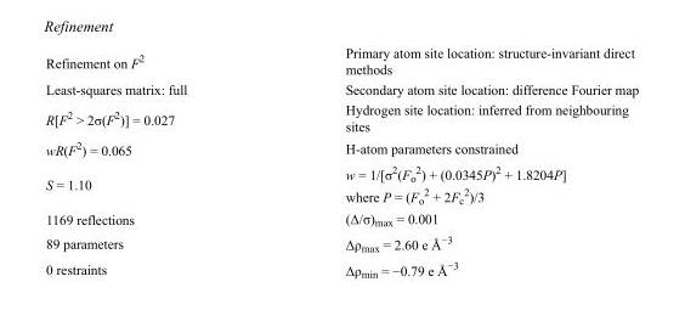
<table><tbody><tr><td>Refinement on F<sup>2</sup></td><td>Primary atom site location: structure-invariant direct methods</td></tr><tr><td>Least-squares matrix: full</td><td>Secondary atom site location: difference Fourier map</td></tr><tr><td>R[F<sup>2</sup> &gt; 2σ(F<sup>2</sup>)] = 0.027</td><td>Hydrogen site location: inferred from neighbouring sites</td></tr><tr><td>wR(F<sup>2</sup>) = 0.065</td><td>H-atom parameters constrained</td></tr><tr><td>S = 1.10</td><td>w = 1/[σ<sup>2</sup>(F<sub>o</sub> <sup>2</sup>) + (0.0345P)<sup>2</sup> + 1.8204P] where P = (F<sub>o</sub> <sup>2</sup> + 2F<sub>c</sub> <sup>2</sup>)/3</td></tr><tr><td>1169 reflections</td><td>(Δ/σ)<sub>max</sub> = 0.001</td></tr><tr><td>89 parameters</td><td>Δρ<sub>max</sub> = 2.60 e Å<sup>−3</sup></td></tr><tr><td>0 restraints</td><td>Δρ<sub>min</sub> = −0.79 e Å<sup>−3</sup></td></tr></tbody></table>